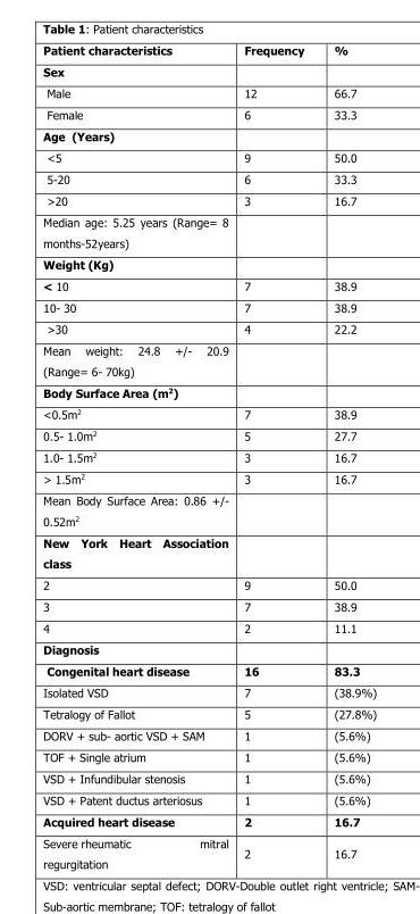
<table><thead><tr><td>Patient characteristics</td><td>Frequency</td><td>%</td></tr></thead><tbody><tr><td colspan="3">Sex</td></tr><tr><td>Male</td><td>12</td><td>66.7</td></tr><tr><td>Female</td><td>6</td><td>33.3</td></tr><tr><td colspan="3">Age (Years)</td></tr><tr><td>&lt;5</td><td>9</td><td>50.0</td></tr><tr><td>5-20</td><td>6</td><td>33.3</td></tr><tr><td>&gt;20</td><td>3</td><td>16.7</td></tr><tr><td colspan="3">Median age: 5.25 years (Range= 8 months-52years)</td></tr><tr><td colspan="3">Weight (Kg)</td></tr><tr><td>&lt; 10</td><td>7</td><td>38.9</td></tr><tr><td>10- 30</td><td>7</td><td>38.9</td></tr><tr><td>&gt;30</td><td>4</td><td>22.2</td></tr><tr><td colspan="3">Mean weight: 24.8 +/- 20.9 (Range= 6- 70kg)</td></tr><tr><td colspan="3">Body Surface Area (m<sup>2</sup>)</td></tr><tr><td>&lt;0.5m<sup>2</sup></td><td>7</td><td>38.9</td></tr><tr><td>0.5- 1.0m<sup>2</sup></td><td>5</td><td>27.7</td></tr><tr><td>1.0- 1.5m<sup>2</sup></td><td>3</td><td>16.7</td></tr><tr><td>&gt; 1.5m<sup>2</sup></td><td>3</td><td>16.7</td></tr><tr><td colspan="3">Mean Body Surface Area: 0.86 +/- 0.52m<sup>2</sup></td></tr><tr><td colspan="3">New York Heart Association class</td></tr><tr><td>2</td><td>9</td><td>50.0</td></tr><tr><td>3</td><td>7</td><td>38.9</td></tr><tr><td>4</td><td>2</td><td>11.1</td></tr><tr><td colspan="3">Diagnosis</td></tr><tr><td>Congenital heart disease</td><td>16</td><td>83.3</td></tr><tr><td>Isolated VSD</td><td>7</td><td>(38.9%)</td></tr><tr><td>Tetralogy of Fallot</td><td>5</td><td>(27.8%)</td></tr><tr><td>DORV + sub- aortic VSD + SAM</td><td>1</td><td>(5.6%)</td></tr><tr><td>TOF + Single atrium</td><td>1</td><td>(5.6%)</td></tr><tr><td>VSD + Infundibular stenosis</td><td>1</td><td>(5.6%)</td></tr><tr><td>VSD + Patent ductus arteriosus</td><td>1</td><td>(5.6%)</td></tr><tr><td>Acquired heart disease</td><td>2</td><td>16.7</td></tr><tr><td>Severe rheumatic mitral regurgitation</td><td>2</td><td>16.7</td></tr></tbody></table>